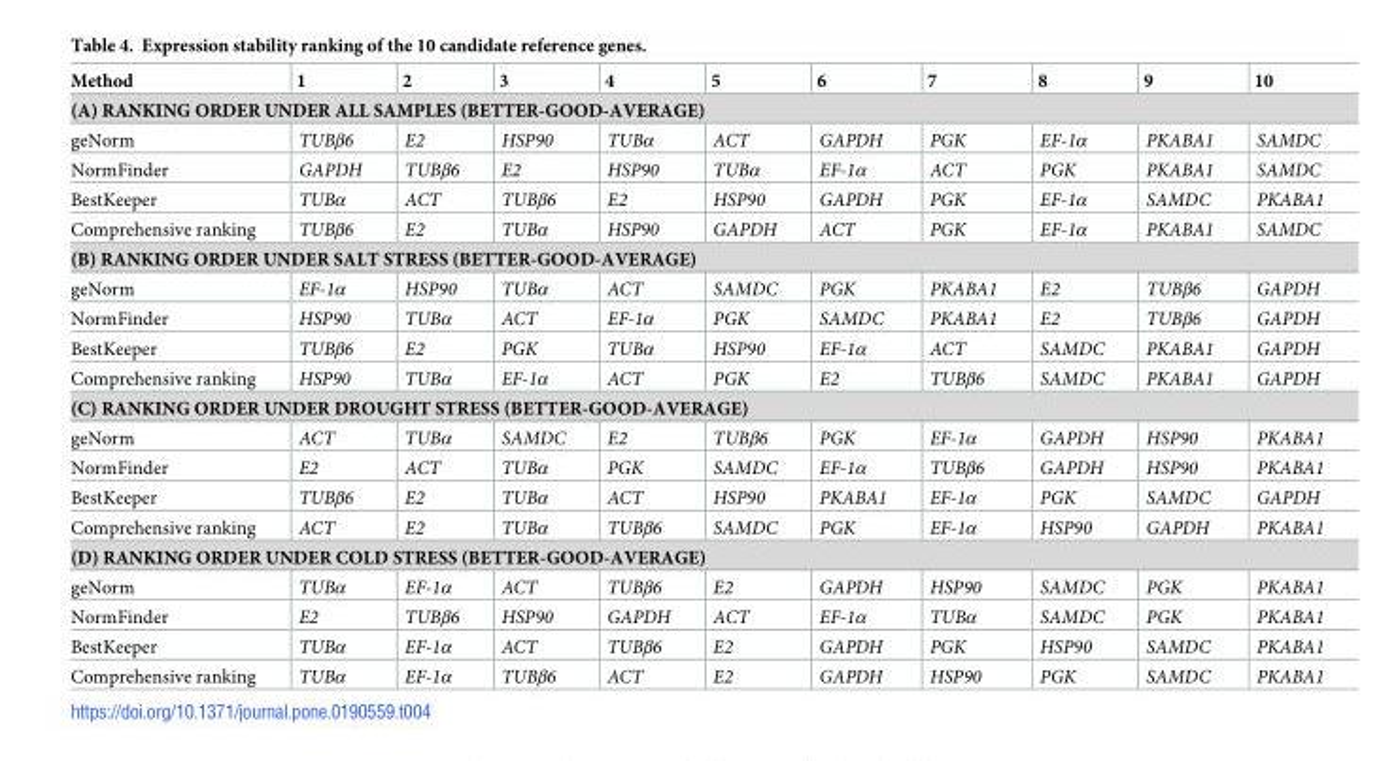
<table><thead><tr><td>Method</td><td>1</td><td>2</td><td>3</td><td>4</td><td>5</td><td>6</td><td>7</td><td>8</td><td>9</td><td>10</td></tr></thead><tbody><tr><td colspan="11">(A) RANKING ORDER UNDER ALL SAMPLES (BETTER-GOOD-AVERAGE)</td></tr><tr><td>geNorm</td><td>TUBβ6</td><td>E2</td><td>HSP90</td><td>TUBα</td><td>ACT</td><td>GAPDH</td><td>PGK</td><td>EF-1α</td><td>PKABA1</td><td>SAMDC</td></tr><tr><td>NormFinder</td><td>GAPDH</td><td>TUBβ6</td><td>E2</td><td>HSP90</td><td>TUBα</td><td>EF-1α</td><td>ACT</td><td>PGK</td><td>PKABA1</td><td>SAMDC</td></tr><tr><td>BestKeeper</td><td>TUBα</td><td>ACT</td><td>TUBβ6</td><td>E2</td><td>HSP90</td><td>GAPDH</td><td>PGK</td><td>EF-1α</td><td>SAMDC</td><td>PKABA1</td></tr><tr><td>Comprehensive ranking</td><td>TUBβ6</td><td>E2</td><td>TUBα</td><td>HSP90</td><td>GAPDH</td><td>ACT</td><td>PGK</td><td>EF-1α</td><td>PKABA1</td><td>SAMDC</td></tr><tr><td colspan="11">(B) RANKING ORDER UNDER SALT STRESS (BETTER-GOOD-AVERAGE)</td></tr><tr><td>geNorm</td><td>EF-1α</td><td>HSP90</td><td>TUBα</td><td>ACT</td><td>SAMDC</td><td>PGK</td><td>PKABA1</td><td>E2</td><td>TUBβ6</td><td>GAPDH</td></tr><tr><td>NormFinder</td><td>HSP90</td><td>TUBα</td><td>ACT</td><td>EF-1α</td><td>PGK</td><td>SAMDC</td><td>PKABA1</td><td>E2</td><td>TUBβ6</td><td>GAPDH</td></tr><tr><td>BestKeeper</td><td>TUBβ6</td><td>E2</td><td>PGK</td><td>TUBα</td><td>HSP90</td><td>EF-1α</td><td>ACT</td><td>SAMDC</td><td>PKABA1</td><td>GAPDH</td></tr><tr><td>Comprehensive ranking</td><td>HSP90</td><td>TUBα</td><td>EF-1α</td><td>ACT</td><td>PGK</td><td>E2</td><td>TUBβ6</td><td>SAMDC</td><td>PKABA1</td><td>GAPDH</td></tr><tr><td colspan="11">(C) RANKING ORDER UNDER DROUGHT STRESS (BETTER-GOOD-AVERAGE)</td></tr><tr><td>geNorm</td><td>ACT</td><td>TUBα</td><td>SAMDC</td><td>E2</td><td>TUBβ6</td><td>PGK</td><td>EF-1α</td><td>GAPDH</td><td>HSP90</td><td>PKABA1</td></tr><tr><td>NormFinder</td><td>E2</td><td>ACT</td><td>TUBα</td><td>PGK</td><td>SAMDC</td><td>EF-1α</td><td>TUBβ6</td><td>GAPDH</td><td>HSP90</td><td>PKABA1</td></tr><tr><td>BestKeeper</td><td>TUBβ6</td><td>E2</td><td>TUBα</td><td>ACT</td><td>HSP90</td><td>PKABA1</td><td>EF-1α</td><td>PGK</td><td>SAMDC</td><td>GAPDH</td></tr><tr><td>Comprehensive ranking</td><td>ACT</td><td>E2</td><td>TUBα</td><td>TUBβ6</td><td>SAMDC</td><td>PGK</td><td>EF-1α</td><td>HSP90</td><td>GAPDH</td><td>PKABA1</td></tr><tr><td colspan="11">(D) RANKING ORDER UNDER COLD STRESS (BETTER-GOOD-AVERAGE)</td></tr><tr><td>geNorm</td><td>TUBα</td><td>EF-1α</td><td>ACT</td><td>TUBβ6</td><td>E2</td><td>GAPDH</td><td>HSP90</td><td>SAMDC</td><td>PGK</td><td>PKABA1</td></tr><tr><td>NormFinder</td><td>E2</td><td>TUBβ6</td><td>HSP90</td><td>GAPDH</td><td>ACT</td><td>EF-1α</td><td>TUBα</td><td>SAMDC</td><td>PGK</td><td>PKABA1</td></tr><tr><td>BestKeeper</td><td>TUBα</td><td>EF-1α</td><td>ACT</td><td>TUBβ6</td><td>E2</td><td>GAPDH</td><td>PGK</td><td>HSP90</td><td>SAMDC</td><td>PKABA1</td></tr><tr><td>Comprehensive ranking</td><td>TUBα</td><td>EF-1α</td><td>TUBβ6</td><td>ACT</td><td>E2</td><td>GAPDH</td><td>HSP90</td><td>PGK</td><td>SAMDC</td><td>PKABA1</td></tr></tbody></table>